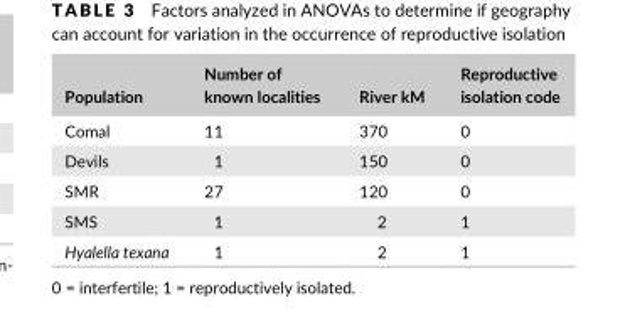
<table><thead><tr><td>Population</td><td>Number of known localities</td><td>River kM</td><td>Reproductive isolation code</td></tr></thead><tbody><tr><td>Comal</td><td>11</td><td>370</td><td>0</td></tr><tr><td>Devils</td><td>1</td><td>150</td><td>0</td></tr><tr><td>SMR</td><td>27</td><td>120</td><td>0</td></tr><tr><td>SMS</td><td>1</td><td>2</td><td>1</td></tr><tr><td>Hyalella texana</td><td>1</td><td>2</td><td>1</td></tr></tbody></table>